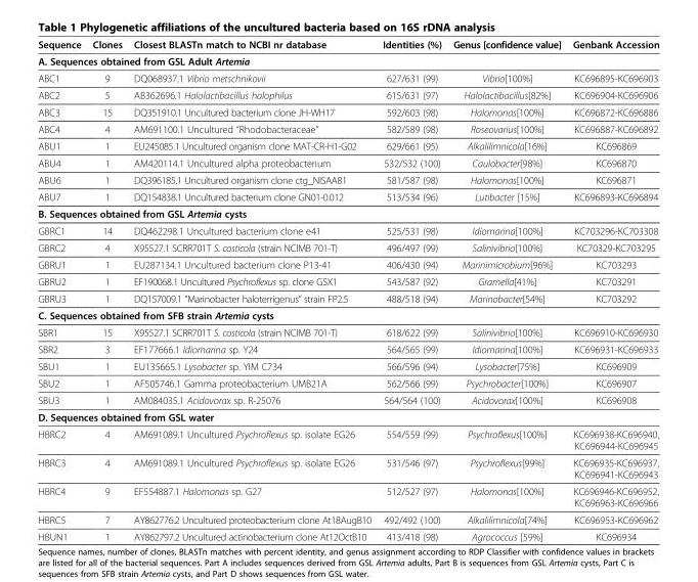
<table><thead><tr><td>Sequence</td><td>Clones</td><td>Closest BLASTn match to NCBI nr database</td><td>Identities (%)</td><td>Genus [confidence value]</td><td>Genbank Accession</td></tr></thead><tbody><tr><td colspan="6">A. Sequences obtained from GSL Adult Artemia</td></tr><tr><td>ABC1</td><td>9</td><td>DQ068937.1 Vibrio metschnikovii</td><td>627/631 (99)</td><td>Vibrio[100%]</td><td>KC696895-KC696903</td></tr><tr><td>ABC2</td><td>5</td><td>AB362696.1 Halolactibacillus halophilus</td><td>615/631 (97)</td><td>Halolactibacillus[82%]</td><td>KC696904-KC696906</td></tr><tr><td>ABC3</td><td>15</td><td>DQ351910.1 Uncultured bacterium clone JH-WH17</td><td>592/603 (98)</td><td>Halomonas[100%]</td><td>KC696872-KC696886</td></tr><tr><td>ABC4</td><td>4</td><td>AM691100.1 Uncultured “Rhodobacteraceae”</td><td>582/589 (98)</td><td>Roseovarius[100%]</td><td>KC696887-KC696892</td></tr><tr><td>ABU1</td><td>1</td><td>EU245085.1 Uncultured organism clone MAT-CR-H1-G02</td><td>629/661 (95)</td><td>Alkalilimnicola[16%]</td><td>KC696869</td></tr><tr><td>ABU4</td><td>1</td><td>AM420114.1 Uncultured alpha proteobacterium</td><td>532/532 (100)</td><td>Caulobacter[98%]</td><td>KC696870</td></tr><tr><td>ABU6</td><td>1</td><td>DQ396185.1 Uncultured organism clone ctg_NISAA81</td><td>581/587 (98)</td><td>Halomonas[100%]</td><td>KC696871</td></tr><tr><td>ABU7</td><td>1</td><td>DQ154838.1 Uncultured bacterium clone GN01-0.012</td><td>513/534 (96)</td><td>Lutibacter [15%]</td><td>KC696893-KC696894</td></tr><tr><td colspan="6">B. Sequences obtained from GSL Artemia cysts</td></tr><tr><td>GBRC1</td><td>14</td><td>DQ462298.1 Uncultured bacterium clone e41</td><td>525/531 (98)</td><td>Idiomarina[100%]</td><td>KC703296-KC703308</td></tr><tr><td>GBRC2</td><td>4</td><td>X95527.1 SCRR701T S. costicola (strain NCIMB 701-T)</td><td>496/497 (99)</td><td>Salinivibrio[100%]</td><td>KC70329-KC703295</td></tr><tr><td>GBRU1</td><td>1</td><td>EU287134.1 Uncultured bacterium clone P13-41</td><td>406/430 (94)</td><td>Marinimicrobium[96%]</td><td>KC703293</td></tr><tr><td>GBRU2</td><td>1</td><td>EF190068.1 Uncultured Psychroflexus sp. clone GSX1</td><td>543/587 (92)</td><td>Gramella[41%]</td><td>KC703291</td></tr><tr><td>GBRU3</td><td>1</td><td>DQ157009.1 “Marinobacter haloterrigenus” strain FP2.5</td><td>488/518 (94)</td><td>Marinobacter[54%]</td><td>KC703292</td></tr><tr><td colspan="6">C. Sequences obtained from SFB strain Artemia cysts</td></tr><tr><td>SBR1</td><td>15</td><td>X95527.1 SCRR701T S. costicola (strain NCIMB 701-T)</td><td>618/622 (99)</td><td>Salinivibrio[100%]</td><td>KC696910-KC696930</td></tr><tr><td>SBR2</td><td>3</td><td>EF177666.1 Idiomarina sp. Y24</td><td>564/565 (99)</td><td>Idiomarina[100%]</td><td>KC696931-KC696933</td></tr><tr><td>SBU1</td><td>1</td><td>EU135665.1 Lysobacter sp. YIM C734</td><td>566/596 (94)</td><td>Lysobacter[75%]</td><td>KC696909</td></tr><tr><td>SBU2</td><td>1</td><td>AF505746.1 Gamma proteobacterium UMB21A</td><td>562/566 (99)</td><td>Psychrobacter[100%]</td><td>KC696907</td></tr><tr><td>SBU3</td><td>1</td><td>AM084035.1 Acidovorax sp. R-25076</td><td>564/564 (100)</td><td>Acidovorax[100%]</td><td>KC696908</td></tr><tr><td colspan="6">D. Sequences obtained from GSL water</td></tr><tr><td>HBRC2</td><td>4</td><td>AM691089.1 Uncultured Psychroflexus sp. isolate EG26</td><td>554/559 (99)</td><td>Psychroflexus[100%]</td><td>KC696938-KC696940, KC696944-KC696945</td></tr><tr><td>HBRC3</td><td>4</td><td>AM691089.1 Uncultured Psychroflexus sp. isolate EG26</td><td>531/546 (97)</td><td>Psychroflexus[99%]</td><td>KC696935-KC696937, KC696941-KC696943</td></tr><tr><td>HBRC4</td><td>9</td><td>EF554887.1 Halomonas sp. G27</td><td>512/527 (97)</td><td>Halomonas[100%]</td><td>KC696946-KC696952, KC696963-KC696966</td></tr><tr><td>HBRC5</td><td>7</td><td>AY862776.2 Uncultured proteobacterium clone At18AugB10</td><td>492/492 (100)</td><td>Alkalilimnicola[74%]</td><td>KC696953-KC696962</td></tr><tr><td>HBUN1</td><td>1</td><td>AY862797.2 Uncultured actinobacterium clone At12OctB10</td><td>413/418 (98)</td><td>Agrococcus [59%]</td><td>KC696934</td></tr></tbody></table>